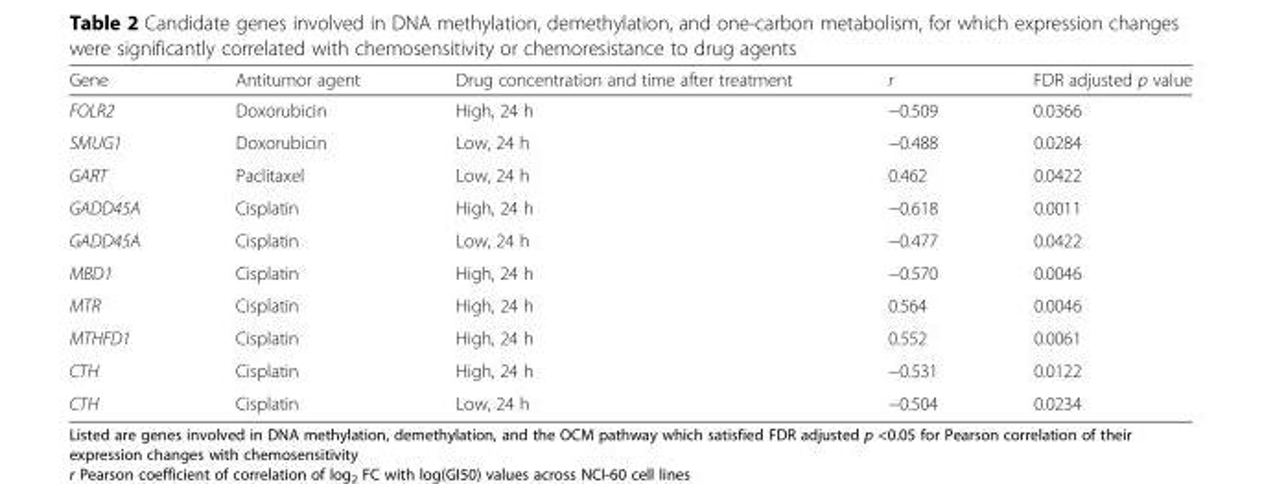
<table><thead><tr><td>Gene</td><td>Antitumor agent</td><td>Drug concentration and time after treatment</td><td>r</td><td>FDR adjusted p value</td></tr></thead><tbody><tr><td>FOLR2</td><td>Doxorubicin</td><td>High, 24 h</td><td>−0.509</td><td>0.0366</td></tr><tr><td>SMUG1</td><td>Doxorubicin</td><td>Low, 24 h</td><td>−0.488</td><td>0.0284</td></tr><tr><td>GART</td><td>Paclitaxel</td><td>Low, 24 h</td><td>0.462</td><td>0.0422</td></tr><tr><td>GADD45A</td><td>Cisplatin</td><td>High, 24 h</td><td>−0.618</td><td>0.0011</td></tr><tr><td>GADD45A</td><td>Cisplatin</td><td>Low, 24 h</td><td>−0.477</td><td>0.0422</td></tr><tr><td>MBD1</td><td>Cisplatin</td><td>High, 24 h</td><td>−0.570</td><td>0.0046</td></tr><tr><td>MTR</td><td>Cisplatin</td><td>High, 24 h</td><td>0.564</td><td>0.0046</td></tr><tr><td>MTHFD1</td><td>Cisplatin</td><td>High, 24 h</td><td>0.552</td><td>0.0061</td></tr><tr><td>CTH</td><td>Cisplatin</td><td>High, 24 h</td><td>−0.531</td><td>0.0122</td></tr><tr><td>CTH</td><td>Cisplatin</td><td>Low, 24 h</td><td>−0.504</td><td>0.0234</td></tr></tbody></table>